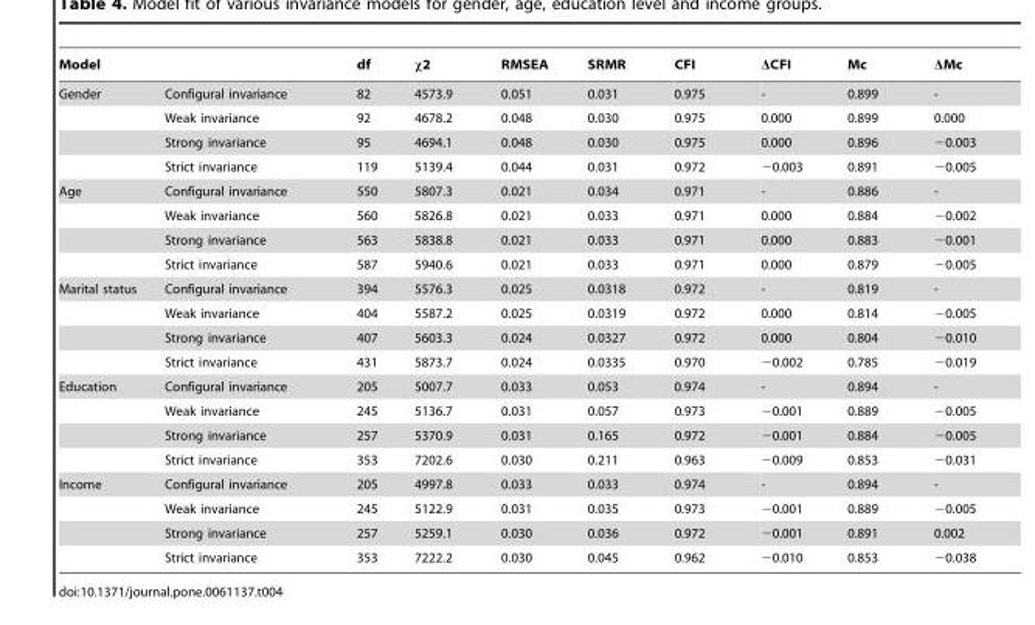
<table><thead><tr><td colspan="2">Model</td><td rowspan="2">df 82</td><td rowspan="2">χ2 4573.9</td><td rowspan="2">RMSEA 0.051</td><td rowspan="2">SRMR 0.031</td><td rowspan="2">CFI 0.975</td><td rowspan="2">ΔCFI -</td><td rowspan="2">Mc 0.899</td><td rowspan="2">ΔMc -</td></tr><tr><td>Gender</td><td>Configural invariance</td></tr></thead><tbody><tr><td></td><td>Weak invariance</td><td>92</td><td>4678.2</td><td>0.048</td><td>0.030</td><td>0.975</td><td>0.000</td><td>0.899</td><td>0.000</td></tr><tr><td></td><td>Strong invariance</td><td>95</td><td>4694.1</td><td>0.048</td><td>0.030</td><td>0.975</td><td>0.000</td><td>0.896</td><td>−0.003</td></tr><tr><td></td><td>Strict invariance</td><td>119</td><td>5139.4</td><td>0.044</td><td>0.031</td><td>0.972</td><td>−0.003</td><td>0.891</td><td>−0.005</td></tr><tr><td rowspan="4">Age</td><td>Configural invariance</td><td>550</td><td>5807.3</td><td>0.021</td><td>0.034</td><td>0.971</td><td>-</td><td>0.886</td><td>-</td></tr><tr><td>Weak invariance</td><td>560</td><td>5826.8</td><td>0.021</td><td>0.033</td><td>0.971</td><td>0.000</td><td>0.884</td><td>−0.002</td></tr><tr><td>Strong invariance</td><td>563</td><td>5838.8</td><td>0.021</td><td>0.033</td><td>0.971</td><td>0.000</td><td>0.883</td><td>−0.001</td></tr><tr><td>Strict invariance</td><td>587</td><td>5940.6</td><td>0.021</td><td>0.033</td><td>0.971</td><td>0.000</td><td>0.879</td><td>−0.005</td></tr><tr><td rowspan="4">Marital status</td><td>Configural invariance</td><td>394</td><td>5576.3</td><td>0.025</td><td>0.0318</td><td>0.972</td><td>-</td><td>0.819</td><td>-</td></tr><tr><td>Weak invariance</td><td>404</td><td>5587.2</td><td>0.025</td><td>0.0319</td><td>0.972</td><td>0.000</td><td>0.814</td><td>−0.005</td></tr><tr><td>Strong invariance</td><td>407</td><td>5603.3</td><td>0.024</td><td>0.0327</td><td>0.972</td><td>0.000</td><td>0.804</td><td>−0.010</td></tr><tr><td>Strict invariance</td><td>431</td><td>5873.7</td><td>0.024</td><td>0.0335</td><td>0.970</td><td>−0.002</td><td>0.785</td><td>−0.019</td></tr><tr><td rowspan="4">Education</td><td>Configural invariance</td><td>205</td><td>5007.7</td><td>0.033</td><td>0.053</td><td>0.974</td><td>-</td><td>0.894</td><td>-</td></tr><tr><td>Weak invariance</td><td>245</td><td>5136.7</td><td>0.031</td><td>0.057</td><td>0.973</td><td>−0.001</td><td>0.889</td><td>−0.005</td></tr><tr><td>Strong invariance</td><td>257</td><td>5370.9</td><td>0.031</td><td>0.165</td><td>0.972</td><td>−0.001</td><td>0.884</td><td>−0.005</td></tr><tr><td>Strict invariance</td><td>353</td><td>7202.6</td><td>0.030</td><td>0.211</td><td>0.963</td><td>−0.009</td><td>0.853</td><td>−0.031</td></tr><tr><td rowspan="4">Income</td><td>Configural invariance</td><td>205</td><td>4997.8</td><td>0.033</td><td>0.033</td><td>0.974</td><td>-</td><td>0.894</td><td>-</td></tr><tr><td>Weak invariance</td><td>245</td><td>5122.9</td><td>0.031</td><td>0.035</td><td>0.973</td><td>−0.001</td><td>0.889</td><td>−0.005</td></tr><tr><td>Strong invariance</td><td>257</td><td>5259.1</td><td>0.030</td><td>0.036</td><td>0.972</td><td>−0.001</td><td>0.891</td><td>0.002</td></tr><tr><td>Strict invariance</td><td>353</td><td>7222.2</td><td>0.030</td><td>0.045</td><td>0.962</td><td>−0.010</td><td>0.853</td><td>−0.038</td></tr></tbody></table>